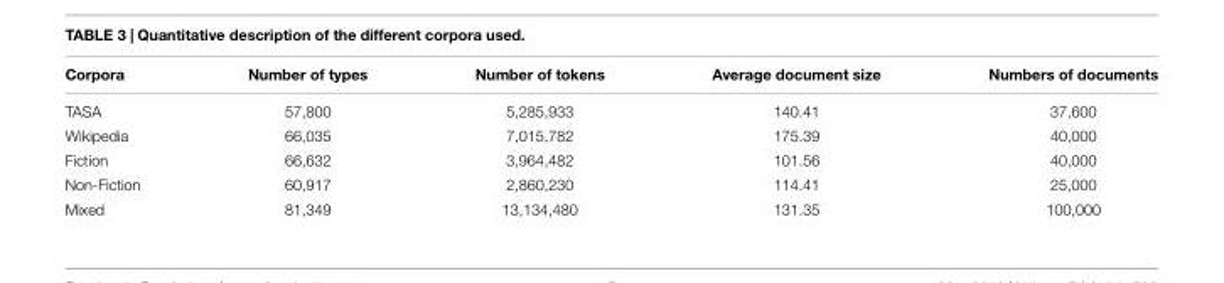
<table><thead><tr><td>Corpora</td><td>Number of types</td><td>Number of tokens</td><td>Average document size</td><td>Numbers of documents</td></tr></thead><tbody><tr><td>TASA</td><td>57,800</td><td>5,285,933</td><td>140.41</td><td>37,600</td></tr><tr><td>Wikipedia</td><td>66,035</td><td>7,015,782</td><td>175.39</td><td>40,000</td></tr><tr><td>Fiction</td><td>66,632</td><td>3,964,482</td><td>101.56</td><td>40,000</td></tr><tr><td>Non-Fiction</td><td>60,917</td><td>2,860,230</td><td>114.41</td><td>25,000</td></tr><tr><td>Mixed</td><td>81,349</td><td>13,134,480</td><td>131.35</td><td>100,000</td></tr></tbody></table>